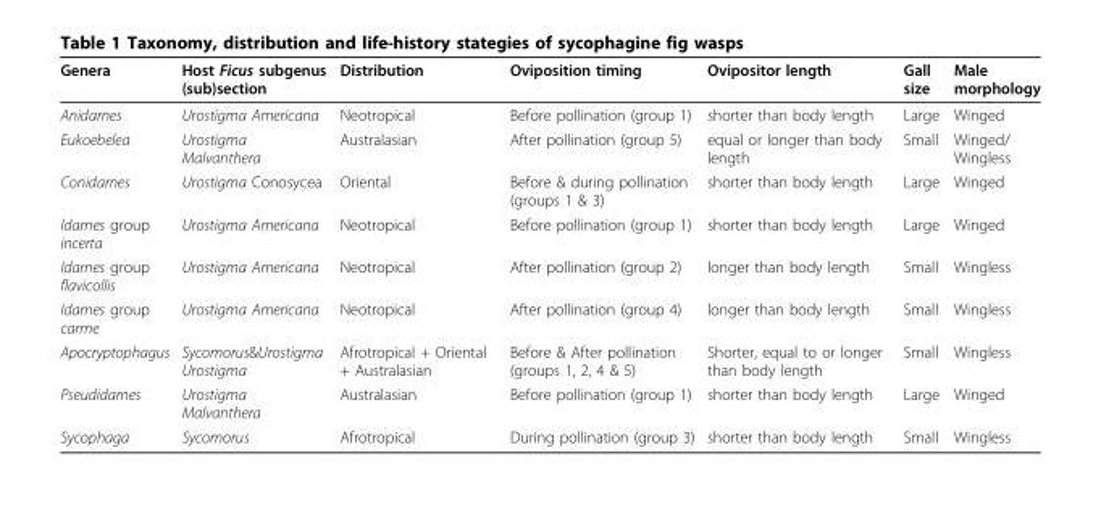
<table><thead><tr><td>Genera</td><td>Host Ficus subgenus (sub)section</td><td>Distribution</td><td>Oviposition timing</td><td>Ovipositor length</td><td>Gall size</td><td>Male morphology</td></tr></thead><tbody><tr><td>Anidarnes</td><td>Urostigma Americana</td><td>Neotropical</td><td>Before pollination (group 1)</td><td>shorter than body length</td><td>Large</td><td>Winged</td></tr><tr><td>Eukoebelea</td><td>Urostigma Malvanthera</td><td>Australasian</td><td>After pollination (group 5)</td><td>equal or longer than body length</td><td>Small</td><td>Winged/ Wingless</td></tr><tr><td>Conidarnes</td><td>Urostigma Conosycea</td><td>Oriental</td><td>Before &amp; during pollination (groups 1 &amp; 3)</td><td>shorter than body length</td><td>Large</td><td>Winged</td></tr><tr><td>Idarnes group incerta</td><td>Urostigma Americana</td><td>Neotropical</td><td>Before pollination (group 1)</td><td>shorter than body length</td><td>Large</td><td>Winged</td></tr><tr><td>Idarnes group flavicollis</td><td>Urostigma Americana</td><td>Neotropical</td><td>After pollination (group 2)</td><td>longer than body length</td><td>Small</td><td>Wingless</td></tr><tr><td>Idarnes group carme</td><td>Urostigma Americana</td><td>Neotropical</td><td>After pollination (group 4)</td><td>longer than body length</td><td>Small</td><td>Wingless</td></tr><tr><td>Apocryptophagus</td><td>Sycomorus&amp;Urostigma Urostigma</td><td>Afrotropical + Oriental + Australasian</td><td>Before &amp; After pollination (groups 1, 2, 4 &amp; 5)</td><td>Shorter, equal to or longer than body length</td><td>Small</td><td>Wingless</td></tr><tr><td>Pseudidarnes</td><td>Urostigma Malvanthera</td><td>Australasian</td><td>Before pollination (group 1)</td><td>shorter than body length</td><td>Large</td><td>Winged</td></tr><tr><td>Sycophaga</td><td>Sycomorus</td><td>Afrotropical</td><td>During pollination (group 3)</td><td>shorter than body length</td><td>Small</td><td>Wingless</td></tr></tbody></table>